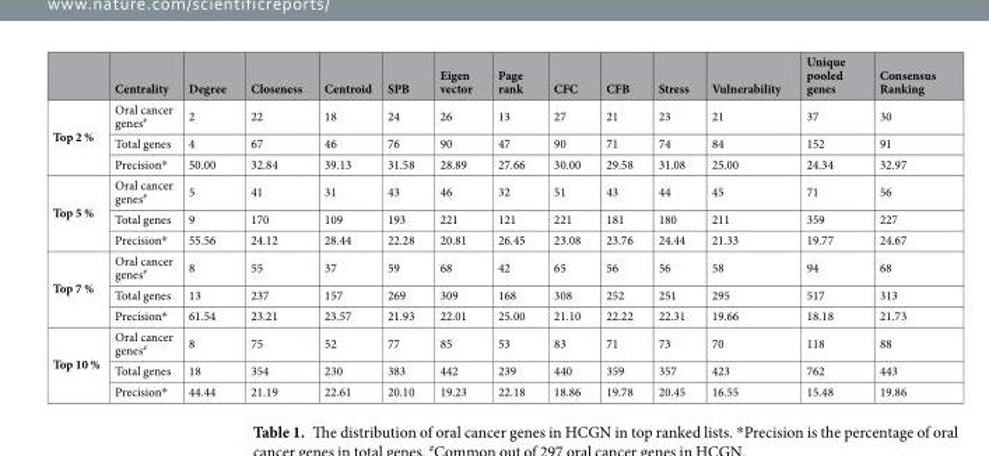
<table><thead><tr><td></td><td>Centrality</td><td>Degree</td><td>Closeness</td><td>Centroid</td><td>SPB</td><td>Eigen vector</td><td>Page rank</td><td>CFC</td><td>CFB</td><td>Stress</td><td>Vulnerability</td><td>Unique pooled genes</td><td>Consensus Ranking</td></tr></thead><tbody><tr><td rowspan="3">Top 2 %</td><td>Oral cancer genes<sup>#</sup></td><td>2</td><td>22</td><td>18</td><td>24</td><td>26</td><td>13</td><td>27</td><td>21</td><td>23</td><td>21</td><td>37</td><td>30</td></tr><tr><td>Total genes</td><td>4</td><td>67</td><td>46</td><td>76</td><td>90</td><td>47</td><td>90</td><td>71</td><td>74</td><td>84</td><td>152</td><td>91</td></tr><tr><td>Precision*</td><td>50.00</td><td>32.84</td><td>39.13</td><td>31.58</td><td>28.89</td><td>27.66</td><td>30.00</td><td>29.58</td><td>31.08</td><td>25.00</td><td>24.34</td><td>32.97</td></tr><tr><td rowspan="3">Top 5 %</td><td>Oral cancer genes<sup>#</sup></td><td>5</td><td>41</td><td>31</td><td>43</td><td>46</td><td>32</td><td>51</td><td>43</td><td>44</td><td>45</td><td>71</td><td>56</td></tr><tr><td>Total genes</td><td>9</td><td>170</td><td>109</td><td>193</td><td>221</td><td>121</td><td>221</td><td>181</td><td>180</td><td>211</td><td>359</td><td>227</td></tr><tr><td>Precision*</td><td>55.56</td><td>24.12</td><td>28.44</td><td>22.28</td><td>20.81</td><td>26.45</td><td>23.08</td><td>23.76</td><td>24.44</td><td>21.33</td><td>19.77</td><td>24.67</td></tr><tr><td rowspan="3">Top 7 %</td><td>Oral cancer genes<sup>#</sup></td><td>8</td><td>55</td><td>37</td><td>59</td><td>68</td><td>42</td><td>65</td><td>56</td><td>56</td><td>58</td><td>94</td><td>68</td></tr><tr><td>Total genes</td><td>13</td><td>237</td><td>157</td><td>269</td><td>309</td><td>168</td><td>308</td><td>252</td><td>251</td><td>295</td><td>517</td><td>313</td></tr><tr><td>Precision*</td><td>61.54</td><td>23.21</td><td>23.57</td><td>21.93</td><td>22.01</td><td>25.00</td><td>21.10</td><td>22.22</td><td>22.31</td><td>19.66</td><td>18.18</td><td>21.73</td></tr><tr><td rowspan="3">Top 10 %</td><td>Oral cancer genes<sup>#</sup></td><td>8</td><td>75</td><td>52</td><td>77</td><td>85</td><td>53</td><td>83</td><td>71</td><td>73</td><td>70</td><td>118</td><td>88</td></tr><tr><td>Total genes</td><td>18</td><td>354</td><td>230</td><td>383</td><td>442</td><td>239</td><td>440</td><td>359</td><td>357</td><td>423</td><td>762</td><td>443</td></tr><tr><td>Precision*</td><td>44.44</td><td>21.19</td><td>22.61</td><td>20.10</td><td>19.23</td><td>22.18</td><td>18.86</td><td>19.78</td><td>20.45</td><td>16.55</td><td>15.48</td><td>19.86</td></tr></tbody></table>